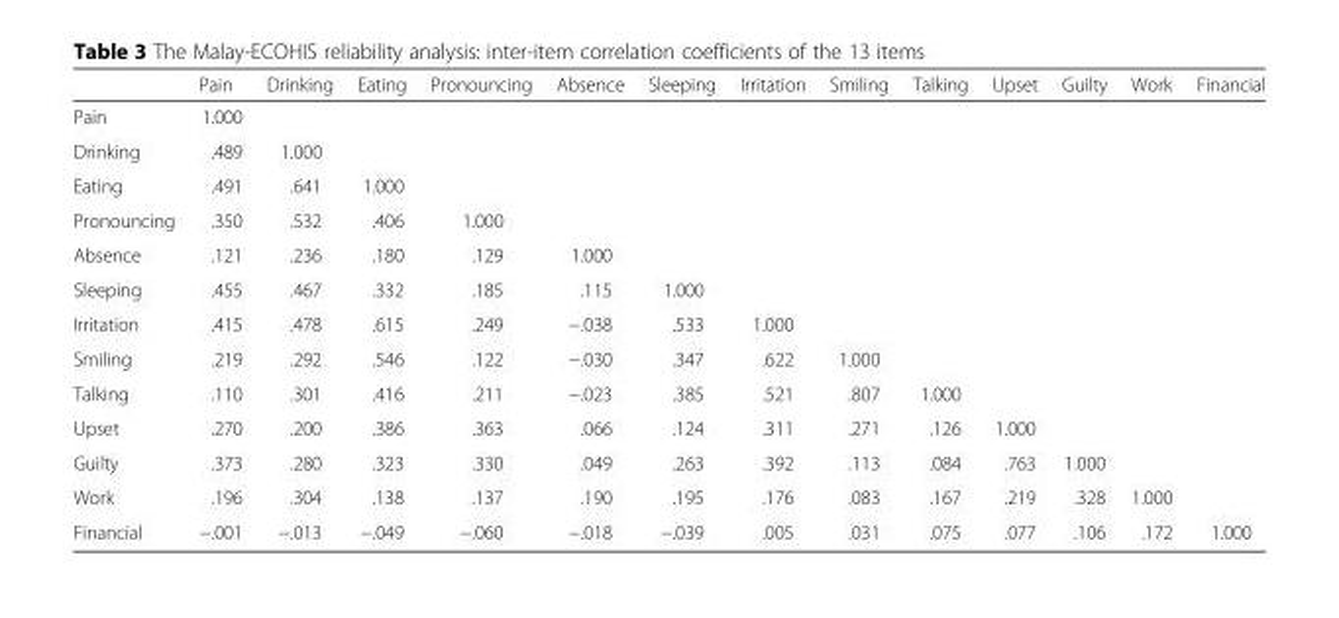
<table><thead><tr><td></td><td>Pain</td><td>Drinking</td><td>Eating</td><td>Pronouncing</td><td>Absence</td><td>Sleeping</td><td>Irritation</td><td>Smiling</td><td>Talking</td><td>Upset</td><td>Guilty</td><td>Work</td><td>Financial</td></tr></thead><tbody><tr><td>Pain</td><td>1.000</td><td></td><td></td><td></td><td></td><td></td><td></td><td></td><td></td><td></td><td></td><td></td><td></td></tr><tr><td>Drinking</td><td>.489</td><td>1.000</td><td></td><td></td><td></td><td></td><td></td><td></td><td></td><td></td><td></td><td></td><td></td></tr><tr><td>Eating</td><td>.491</td><td>.641</td><td>1.000</td><td></td><td></td><td></td><td></td><td></td><td></td><td></td><td></td><td></td><td></td></tr><tr><td>Pronouncing</td><td>.350</td><td>.532</td><td>.406</td><td>1.000</td><td></td><td></td><td></td><td></td><td></td><td></td><td></td><td></td><td></td></tr><tr><td>Absence</td><td>.121</td><td>.236</td><td>.180</td><td>.129</td><td>1.000</td><td></td><td></td><td></td><td></td><td></td><td></td><td></td><td></td></tr><tr><td>Sleeping</td><td>.455</td><td>.467</td><td>.332</td><td>.185</td><td>.115</td><td>1.000</td><td></td><td></td><td></td><td></td><td></td><td></td><td></td></tr><tr><td>Irritation</td><td>.415</td><td>.478</td><td>.615</td><td>.249</td><td>−.038</td><td>.533</td><td>1.000</td><td></td><td></td><td></td><td></td><td></td><td></td></tr><tr><td>Smiling</td><td>.219</td><td>.292</td><td>.546</td><td>.122</td><td>−.030</td><td>.347</td><td>.622</td><td>1.000</td><td></td><td></td><td></td><td></td><td></td></tr><tr><td>Talking</td><td>.110</td><td>.301</td><td>.416</td><td>.211</td><td>−.023</td><td>.385</td><td>.521</td><td>.807</td><td>1.000</td><td></td><td></td><td></td><td></td></tr><tr><td>Upset</td><td>.270</td><td>.200</td><td>.386</td><td>.363</td><td>.066</td><td>.124</td><td>.311</td><td>.271</td><td>.126</td><td>1.000</td><td></td><td></td><td></td></tr><tr><td>Guilty</td><td>.373</td><td>.280</td><td>.323</td><td>.330</td><td>.049</td><td>.263</td><td>.392</td><td>.113</td><td>.084</td><td>.763</td><td>1.000</td><td></td><td></td></tr><tr><td>Work</td><td>.196</td><td>.304</td><td>.138</td><td>.137</td><td>.190</td><td>.195</td><td>.176</td><td>.083</td><td>.167</td><td>.219</td><td>.328</td><td>1.000</td><td></td></tr><tr><td>Financial</td><td>−.001</td><td>−.013</td><td>−.049</td><td>−.060</td><td>−.018</td><td>−.039</td><td>.005</td><td>.031</td><td>.075</td><td>.077</td><td>.106</td><td>.172</td><td>1.000</td></tr></tbody></table>